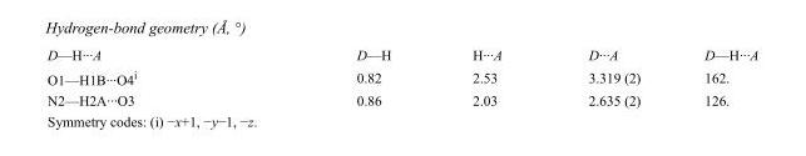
<table><tbody><tr><td>D—H···A</td><td>D—H</td><td>H···A</td><td>D···A</td><td>D—H···A</td></tr><tr><td>O1—H1B···O4<sup>i</sup></td><td>0.82</td><td>2.53</td><td>3.319 (2)</td><td>162.</td></tr><tr><td>N2—H2A···O3</td><td>0.86</td><td>2.03</td><td>2.635 (2)</td><td>126.</td></tr></tbody></table>